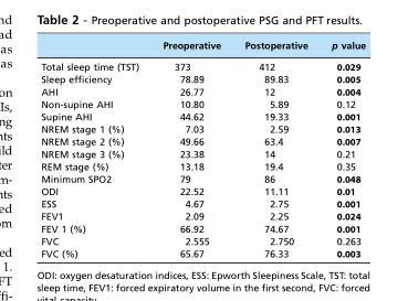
<table><thead><tr><td></td><td>Preoperative</td><td>Postoperative</td><td>p value</td></tr></thead><tbody><tr><td>Total sleep time (TST)</td><td>373</td><td>412</td><td>0.029</td></tr><tr><td>Sleep efficiency</td><td>78.89</td><td>89.83</td><td>0.005</td></tr><tr><td>AHI</td><td>26.77</td><td>12</td><td>0.004</td></tr><tr><td>Non-supine AHI</td><td>10.80</td><td>5.89</td><td>0.12</td></tr><tr><td>Supine AHI</td><td>44.62</td><td>19.33</td><td>0.001</td></tr><tr><td>NREM stage 1 (%)</td><td>7.03</td><td>2.59</td><td>0.013</td></tr><tr><td>NREM stage 2 (%)</td><td>49.66</td><td>63.4</td><td>0.007</td></tr><tr><td>NREM stage 3 (%)</td><td>23.38</td><td>14</td><td>0.21</td></tr><tr><td>REM stage (%)</td><td>13.18</td><td>19.4</td><td>0.35</td></tr><tr><td>Minimum SPO2</td><td>79</td><td>86</td><td>0.048</td></tr><tr><td>ODI</td><td>22.52</td><td>11.11</td><td>0.01</td></tr><tr><td>ESS</td><td>4.67</td><td>2.75</td><td>0.001</td></tr><tr><td>FEV1</td><td>2.09</td><td>2.25</td><td>0.024</td></tr><tr><td>FEV 1 (%)</td><td>66.92</td><td>74.67</td><td>0.001</td></tr><tr><td>FVC</td><td>2.555</td><td>2.750</td><td>0.263</td></tr><tr><td>FVC (%)</td><td>65.67</td><td>76.33</td><td>0.003</td></tr></tbody></table>